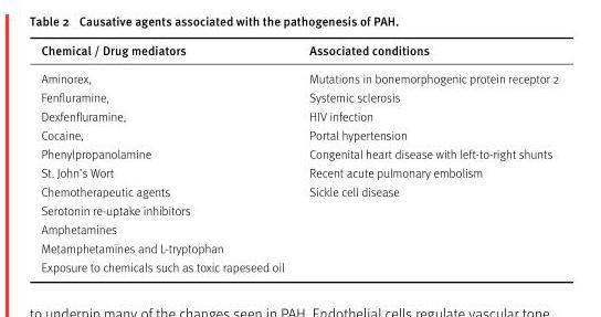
<table><thead><tr><td>Chemical / Drug mediators</td><td>Associated conditions</td></tr></thead><tbody><tr><td>Aminorex,</td><td>Mutations in bonemorphogenic protein receptor 2</td></tr><tr><td>Fenfluramine,</td><td>Systemic sclerosis</td></tr><tr><td>Dexfenfluramine,</td><td>HIV infection</td></tr><tr><td>Cocaine,</td><td>Portal hypertension</td></tr><tr><td>Phenylpropanolamine</td><td>Congenital heart disease with left-to-right shunts</td></tr><tr><td>St. John’s Wort</td><td>Recent acute pulmonary embolism</td></tr><tr><td>Chemotherapeutic agents</td><td>Sickle cell disease</td></tr><tr><td colspan="2">Serotonin re-uptake inhibitors</td></tr><tr><td colspan="2">Amphetamines</td></tr><tr><td colspan="2">Metamphetamines and L-tryptophan</td></tr><tr><td>Exposure to chemicals such as toxic rapeseed oil</td><td></td></tr></tbody></table>